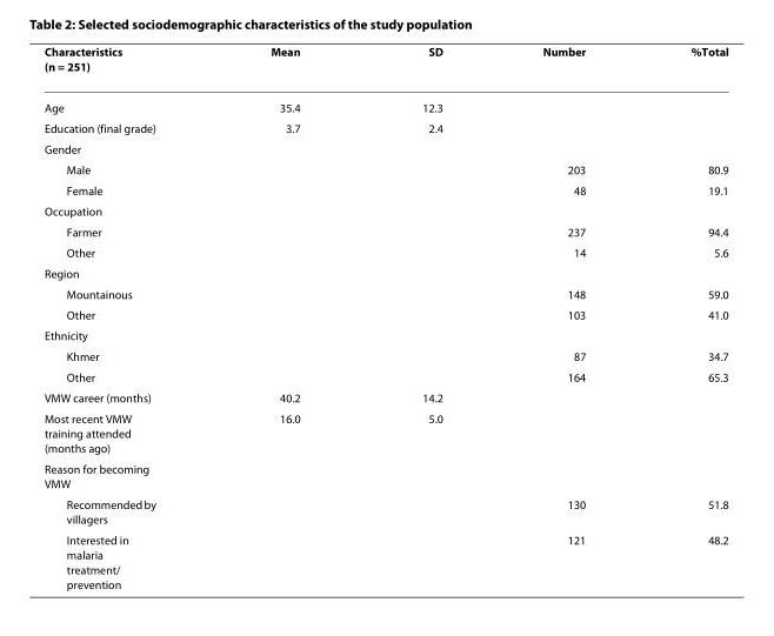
<table><thead><tr><td>Characteristics (n = 251)</td><td>Mean</td><td>SD</td><td>Number</td><td>%Total</td></tr></thead><tbody><tr><td>Age</td><td>35.4</td><td>12.3</td><td></td><td></td></tr><tr><td>Education (final grade)</td><td>3.7</td><td>2.4</td><td></td><td></td></tr><tr><td colspan="5">Gender</td></tr><tr><td>Male</td><td></td><td></td><td>203</td><td>80.9</td></tr><tr><td>Female</td><td></td><td></td><td>48</td><td>19.1</td></tr><tr><td colspan="5">Occupation</td></tr><tr><td>Farmer</td><td></td><td></td><td>237</td><td>94.4</td></tr><tr><td>Other</td><td></td><td></td><td>14</td><td>5.6</td></tr><tr><td colspan="5">Region</td></tr><tr><td>Mountainous</td><td></td><td></td><td>148</td><td>59.0</td></tr><tr><td>Other</td><td></td><td></td><td>103</td><td>41.0</td></tr><tr><td colspan="5">Ethnicity</td></tr><tr><td>Khmer</td><td></td><td></td><td>87</td><td>34.7</td></tr><tr><td>Other</td><td></td><td></td><td>164</td><td>65.3</td></tr><tr><td>VMW career (months)</td><td>40.2</td><td>14.2</td><td></td><td></td></tr><tr><td>Most recent VMW training attended (months ago)</td><td>16.0</td><td>5.0</td><td></td><td></td></tr><tr><td colspan="5">Reason for becoming VMW</td></tr><tr><td>Recommended by villagers</td><td></td><td></td><td>130</td><td>51.8</td></tr><tr><td>Interested in malaria treatment/ prevention</td><td></td><td></td><td>121</td><td>48.2</td></tr></tbody></table>